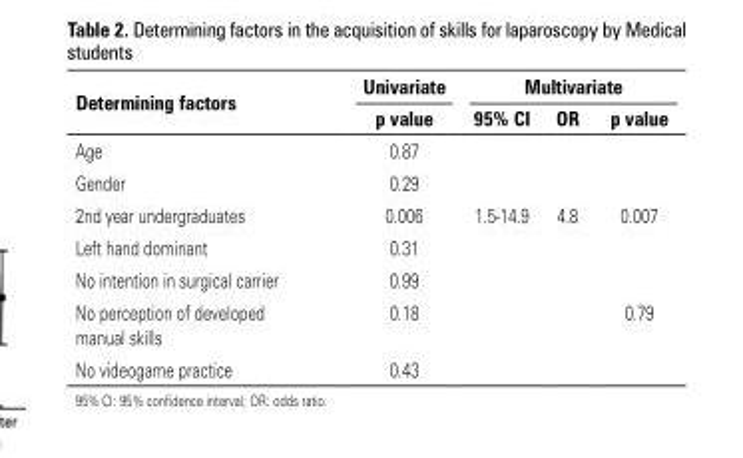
<table><thead><tr><td rowspan="2">Determining factors</td><td rowspan="2">Univariate p value</td><td colspan="3">Multivariate</td></tr><tr><td>95% CI</td><td>OR</td><td>p value</td></tr></thead><tbody><tr><td>Age</td><td>0.87</td><td></td><td></td><td></td></tr><tr><td>Gender</td><td>0.29</td><td></td><td></td><td></td></tr><tr><td>2nd year undergraduates</td><td>0.006</td><td>1.5-14.9</td><td>4.8</td><td>0.007</td></tr><tr><td>Left hand dominant</td><td>0.31</td><td></td><td></td><td></td></tr><tr><td>No intention in surgical carrier</td><td>0.99</td><td></td><td></td><td></td></tr><tr><td>No perception of developed manual skills</td><td>0.18</td><td></td><td></td><td>0.79</td></tr><tr><td>No videogame practice</td><td>0.43</td><td></td><td></td><td></td></tr></tbody></table>